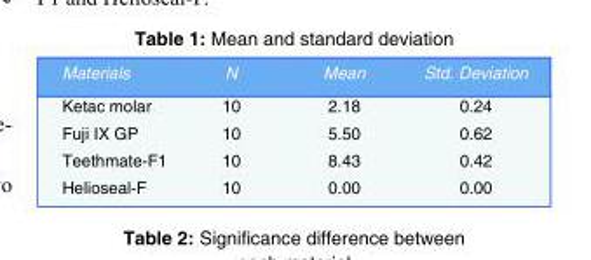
<table><tbody><tr><td>Materials</td><td>N</td><td>Mean</td><td>Std. Deviation</td></tr><tr><td>Ketac molar</td><td>10</td><td>2.18</td><td>0.24</td></tr><tr><td>Fuji IX GP</td><td>10</td><td>5.50</td><td>0.62</td></tr><tr><td>Teethmate-F1</td><td>10</td><td>8.43</td><td>0.42</td></tr><tr><td>Helioseal-F</td><td>10</td><td>0.00</td><td>0.00</td></tr></tbody></table>